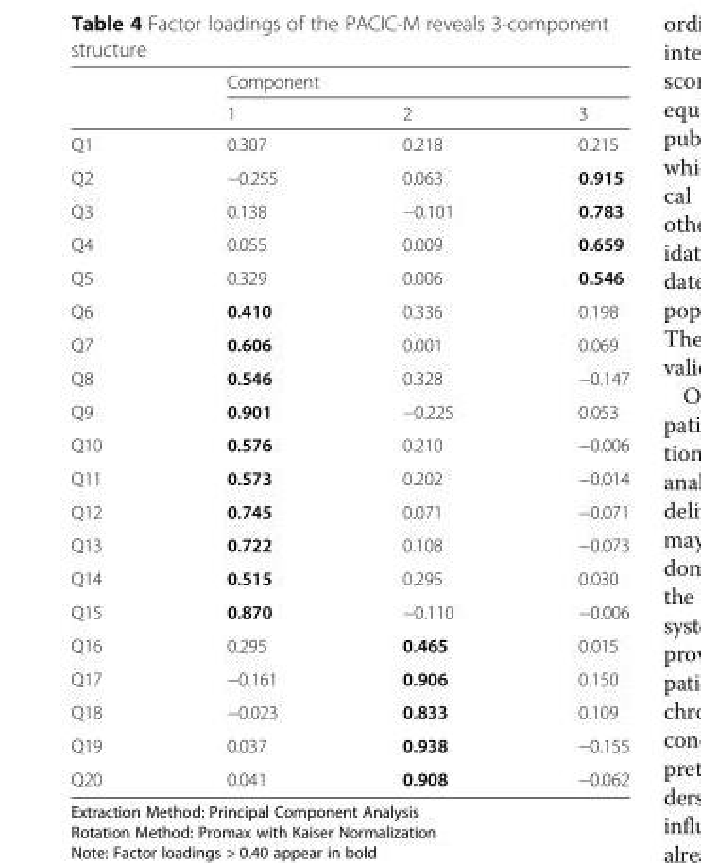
<table><thead><tr><td rowspan="2"></td><td colspan="3">Component</td></tr><tr><td>1</td><td>2</td><td>3</td></tr></thead><tbody><tr><td>Q1</td><td>0.307</td><td>0.218</td><td>0.215</td></tr><tr><td>Q2</td><td>−0.255</td><td>0.063</td><td>0.915</td></tr><tr><td>Q3</td><td>0.138</td><td>−0.101</td><td>0.783</td></tr><tr><td>Q4</td><td>0.055</td><td>0.009</td><td>0.659</td></tr><tr><td>Q5</td><td>0.329</td><td>0.006</td><td>0.546</td></tr><tr><td>Q6</td><td>0.410</td><td>0.336</td><td>0.198</td></tr><tr><td>Q7</td><td>0.606</td><td>0.001</td><td>0.069</td></tr><tr><td>Q8</td><td>0.546</td><td>0.328</td><td>−0.147</td></tr><tr><td>Q9</td><td>0.901</td><td>−0.225</td><td>0.053</td></tr><tr><td>Q10</td><td>0.576</td><td>0.210</td><td>−0.006</td></tr><tr><td>Q11</td><td>0.573</td><td>0.202</td><td>−0.014</td></tr><tr><td>Q12</td><td>0.745</td><td>0.071</td><td>−0.071</td></tr><tr><td>Q13</td><td>0.722</td><td>0.108</td><td>−0.073</td></tr><tr><td>Q14</td><td>0.515</td><td>0.295</td><td>0.030</td></tr><tr><td>Q15</td><td>0.870</td><td>−0.110</td><td>−0.006</td></tr><tr><td>Q16</td><td>0.295</td><td>0.465</td><td>0.015</td></tr><tr><td>Q17</td><td>−0.161</td><td>0.906</td><td>0.150</td></tr><tr><td>Q18</td><td>−0.023</td><td>0.833</td><td>0.109</td></tr><tr><td>Q19</td><td>0.037</td><td>0.938</td><td>−0.155</td></tr><tr><td>Q20</td><td>0.041</td><td>0.908</td><td>−0.062</td></tr></tbody></table>